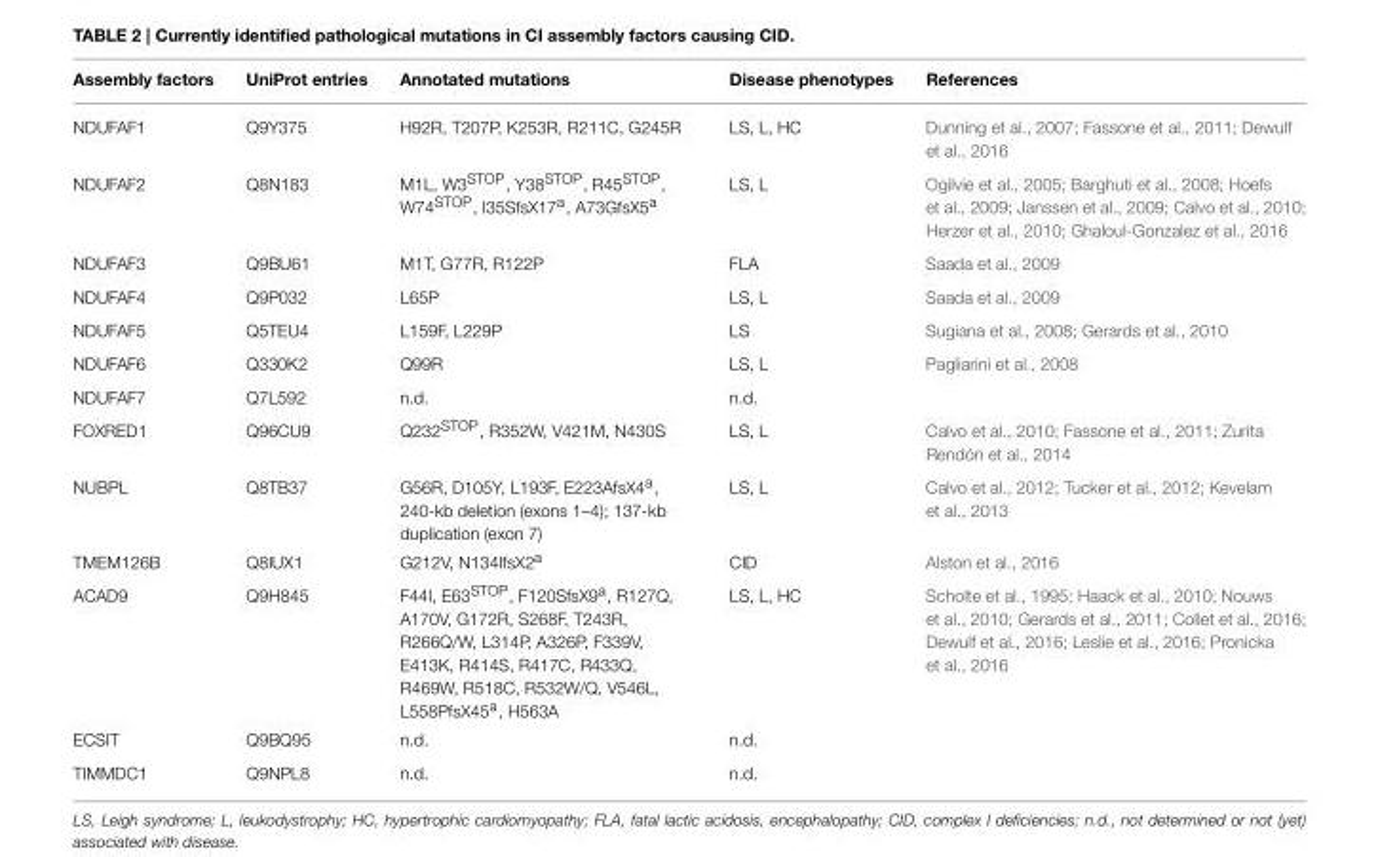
<table><thead><tr><td>Assembly factors</td><td>UniProt entries</td><td>Annotated mutations</td><td>Disease phenotypes</td><td>References</td></tr></thead><tbody><tr><td>NDUFAF1</td><td>Q9Y375</td><td>H92R, T207P, K253R, R211C, G245R</td><td>LS, L, HC</td><td>Dunning et al., 2007; Fassone et al., 2011; Dewulf et al., 2016</td></tr><tr><td>NDUFAF2</td><td>Q8N183</td><td>M1L, W3<sup>STOP</sup>, Y38<sup>STOP</sup>, R45<sup>STOP</sup>, W74<sup>STOP</sup>, I35SfsX17<sup>a</sup>, A73GfsX5<sup>a</sup></td><td>LS, L</td><td>Ogilvie et al., 2005; Barghuti et al., 2008; Hoefs et al., 2009; Janssen et al., 2009; Calvo et al., 2010; Herzer et al., 2010; Ghaloul-Gonzalez et al., 2016</td></tr><tr><td>NDUFAF3</td><td>Q9BU61</td><td>M1T, G77R, R122P</td><td>FLA</td><td>Saada et al., 2009</td></tr><tr><td>NDUFAF4</td><td>Q9P032</td><td>L65P</td><td>LS, L</td><td>Saada et al., 2009</td></tr><tr><td>NDUFAF5</td><td>Q5TEU4</td><td>L159F, L229P</td><td>LS</td><td>Sugiana et al., 2008; Gerards et al., 2010</td></tr><tr><td>NDUFAF6</td><td>Q330K2</td><td>Q99R</td><td>LS, L</td><td>Pagliarini et al., 2008</td></tr><tr><td>NDUFAF7</td><td>Q7L592</td><td>n.d.</td><td>n.d.</td><td></td></tr><tr><td>FOXRED1</td><td>Q96CU9</td><td>Q232<sup>STOP</sup>, R352W, V421M, N430S</td><td>LS, L</td><td>Calvo et al., 2010; Fassone et al., 2011; Zurita Rendón et al., 2014</td></tr><tr><td>NUBPL</td><td>Q8TB37</td><td>G56R, D105Y, L193F, E223AfsX4<sup>a</sup>, 240-kb deletion (exons 1–4); 137-kb duplication (exon 7)</td><td>LS, L</td><td>Calvo et al., 2012; Tucker et al., 2012; Kevelam et al., 2013</td></tr><tr><td>TMEM126B</td><td>Q8IUX1</td><td>G212V, N134IfsX2<sup>a</sup></td><td>CID</td><td>Alston et al., 2016</td></tr><tr><td>ACAD9</td><td>Q9H845</td><td>F44I, E63<sup>STOP</sup>, F120SfsX9<sup>a</sup>, R127Q, A170V, G172R, S268F, T243R, R266Q/W, L314P, A326P, F339V, E413K, R414S, R417C, R433Q, R469W, R518C, R532W/Q, V546L, L558PfsX45<sup>a</sup>, H563A</td><td>LS, L, HC</td><td>Scholte et al., 1995; Haack et al., 2010; Nouws et al., 2010; Gerards et al., 2011; Collet et al., 2016; Dewulf et al., 2016; Leslie et al., 2016; Pronicka et al., 2016</td></tr><tr><td>ECSIT</td><td>Q9BQ95</td><td>n.d.</td><td>n.d.</td><td></td></tr><tr><td>TIMMDC1</td><td>Q9NPL8</td><td>n.d.</td><td>n.d.</td><td></td></tr></tbody></table>